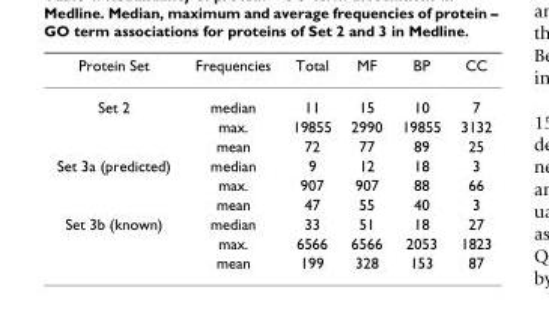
<table><thead><tr><td>Protein Set</td><td>Frequencies</td><td>Total</td><td>MF</td><td>BP</td><td>CC</td></tr></thead><tbody><tr><td rowspan="3">Set 2</td><td>median</td><td>11</td><td>15</td><td>10</td><td>7</td></tr><tr><td>max.</td><td>19855</td><td>2990</td><td>19855</td><td>3132</td></tr><tr><td>mean</td><td>72</td><td>77</td><td>89</td><td>25</td></tr><tr><td rowspan="3">Set 3a (predicted)</td><td>median</td><td>9</td><td>12</td><td>18</td><td>3</td></tr><tr><td>max.</td><td>907</td><td>907</td><td>88</td><td>66</td></tr><tr><td>mean</td><td>47</td><td>55</td><td>40</td><td>3</td></tr><tr><td rowspan="3">Set 3b (known)</td><td>median</td><td>33</td><td>51</td><td>18</td><td>27</td></tr><tr><td>max.</td><td>6566</td><td>6566</td><td>2053</td><td>1823</td></tr><tr><td>mean</td><td>199</td><td>328</td><td>153</td><td>87</td></tr></tbody></table>